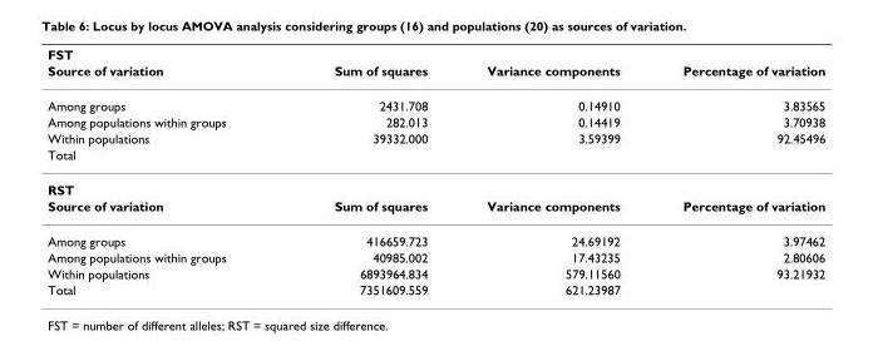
<table><thead><tr><td rowspan="2">FST Source of variation</td><td rowspan="2">Sum of squares</td><td rowspan="2">Variance components</td><td rowspan="2">Percentage of variation</td></tr><tr></tr></thead><tbody><tr><td>Among groups</td><td>2431.708</td><td>0.14910</td><td>3.83565</td></tr><tr><td>Among populations within groups</td><td>282.013</td><td>0.14419</td><td>3.70938</td></tr><tr><td>Within populations</td><td>39332.000</td><td>3.59399</td><td>92.45496</td></tr><tr><td colspan="4">Total</td></tr><tr><td colspan="4">RST</td></tr><tr><td>Source of variation</td><td>Sum of squares</td><td>Variance components</td><td>Percentage of variation</td></tr><tr><td>Among groups</td><td>416659.723</td><td>24.69192</td><td>3.97462</td></tr><tr><td>Among populations within groups</td><td>40985.002</td><td>17.43235</td><td>2.80606</td></tr><tr><td>Within populations</td><td>6893964.834</td><td>579.11560</td><td>93.21932</td></tr><tr><td>Total</td><td>7351609.559</td><td>621.23987</td><td></td></tr></tbody></table>